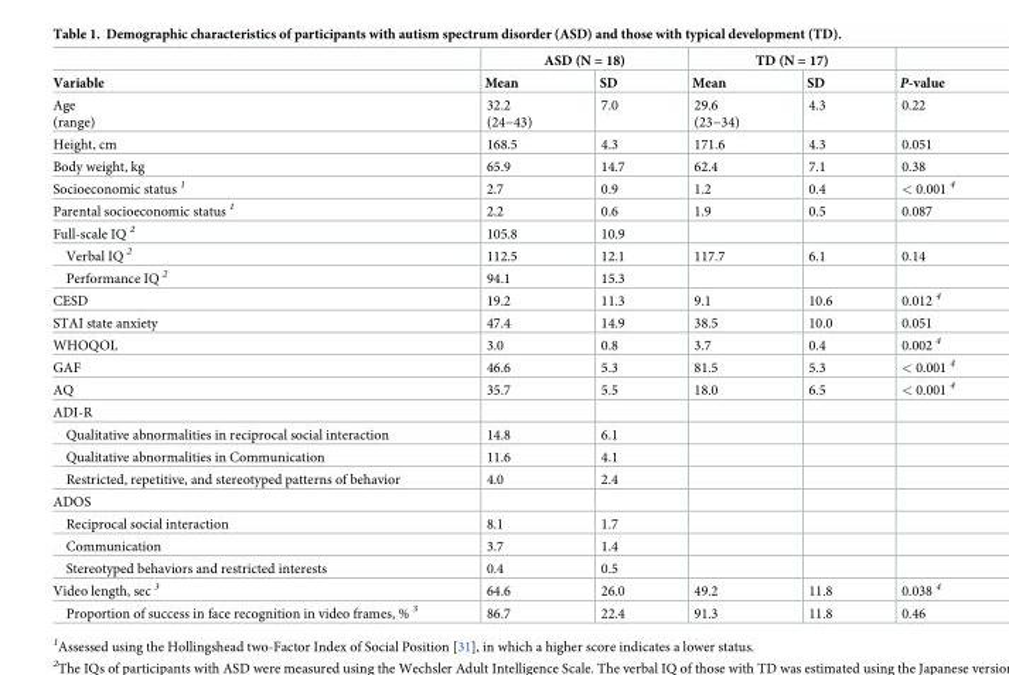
<table><thead><tr><td rowspan="2">Variable</td><td colspan="2">ASD (N = 18)</td><td colspan="2">TD (N = 17)</td><td rowspan="2">P-value</td></tr><tr><td>Mean</td><td>SD</td><td>Mean</td><td>SD</td></tr></thead><tbody><tr><td>Age (range)</td><td>32.2 (24−43)</td><td>7.0</td><td>29.6 (23−34)</td><td>4.3</td><td>0.22</td></tr><tr><td>Height, cm</td><td>168.5</td><td>4.3</td><td>171.6</td><td>4.3</td><td>0.051</td></tr><tr><td>Body weight, kg</td><td>65.9</td><td>14.7</td><td>62.4</td><td>7.1</td><td>0.38</td></tr><tr><td>Socioeconomic status <sup>1</sup></td><td>2.7</td><td>0.9</td><td>1.2</td><td>0.4</td><td>&lt; 0.001 <sup>4</sup></td></tr><tr><td>Parental socioeconomic status <sup>1</sup></td><td>2.2</td><td>0.6</td><td>1.9</td><td>0.5</td><td>0.087</td></tr><tr><td>Full-scale IQ <sup>2</sup></td><td>105.8</td><td>10.9</td><td></td><td></td><td></td></tr><tr><td>Verbal IQ <sup>2</sup></td><td>112.5</td><td>12.1</td><td>117.7</td><td>6.1</td><td>0.14</td></tr><tr><td>Performance IQ <sup>2</sup></td><td>94.1</td><td>15.3</td><td></td><td></td><td></td></tr><tr><td>CESD</td><td>19.2</td><td>11.3</td><td>9.1</td><td>10.6</td><td>0.012 <sup>4</sup></td></tr><tr><td>STAI state anxiety</td><td>47.4</td><td>14.9</td><td>38.5</td><td>10.0</td><td>0.051</td></tr><tr><td>WHOQOL</td><td>3.0</td><td>0.8</td><td>3.7</td><td>0.4</td><td>0.002 <sup>4</sup></td></tr><tr><td>GAF</td><td>46.6</td><td>5.3</td><td>81.5</td><td>5.3</td><td>&lt; 0.001 <sup>4</sup></td></tr><tr><td>AQ</td><td>35.7</td><td>5.5</td><td>18.0</td><td>6.5</td><td>&lt; 0.001 <sup>4</sup></td></tr><tr><td colspan="6">ADI-R</td></tr><tr><td>Qualitative abnormalities in reciprocal social interaction</td><td>14.8</td><td>6.1</td><td></td><td></td><td></td></tr><tr><td>Qualitative abnormalities in Communication</td><td>11.6</td><td>4.1</td><td></td><td></td><td></td></tr><tr><td>Restricted, repetitive, and stereotyped patterns of behavior</td><td>4.0</td><td>2.4</td><td></td><td></td><td></td></tr><tr><td colspan="6">ADOS</td></tr><tr><td>Reciprocal social interaction</td><td>8.1</td><td>1.7</td><td></td><td></td><td></td></tr><tr><td>Communication</td><td>3.7</td><td>1.4</td><td></td><td></td><td></td></tr><tr><td>Stereotyped behaviors and restricted interests</td><td>0.4</td><td>0.5</td><td></td><td></td><td></td></tr><tr><td>Video length, sec <sup>3</sup></td><td>64.6</td><td>26.0</td><td>49.2</td><td>11.8</td><td>0.038 <sup>4</sup></td></tr><tr><td>Proportion of success in face recognition in video frames, % <sup>3</sup></td><td>86.7</td><td>22.4</td><td>91.3</td><td>11.8</td><td>0.46</td></tr></tbody></table>